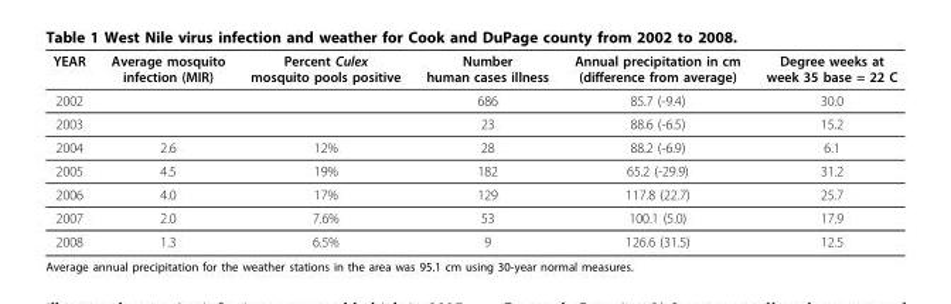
<table><thead><tr><td>YEAR</td><td>Average mosquito infection (MIR)</td><td>Percent Culex mosquito pools positive</td><td>Number human cases illness</td><td>Annual precipitation in cm (difference from average)</td><td>Degree weeks at week 35 base = 22 C</td></tr></thead><tbody><tr><td>2002</td><td></td><td></td><td>686</td><td>85.7 (-9.4)</td><td>30.0</td></tr><tr><td>2003</td><td></td><td></td><td>23</td><td>88.6 (-6.5)</td><td>15.2</td></tr><tr><td>2004</td><td>2.6</td><td>12%</td><td>28</td><td>88.2 (-6.9)</td><td>6.1</td></tr><tr><td>2005</td><td>4.5</td><td>19%</td><td>182</td><td>65.2 (-29.9)</td><td>31.2</td></tr><tr><td>2006</td><td>4.0</td><td>17%</td><td>129</td><td>117.8 (22.7)</td><td>25.7</td></tr><tr><td>2007</td><td>2.0</td><td>7.6%</td><td>53</td><td>100.1 (5.0)</td><td>17.9</td></tr><tr><td>2008</td><td>1.3</td><td>6.5%</td><td>9</td><td>126.6 (31.5)</td><td>12.5</td></tr></tbody></table>